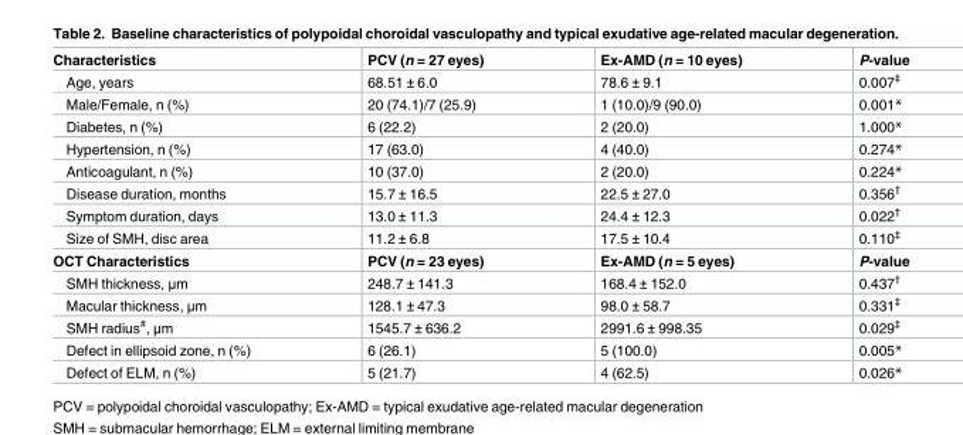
<table><tbody><tr><td>Characteristics</td><td>PCV (n = 27 eyes)</td><td>Ex-AMD (n = 10 eyes)</td><td>P-value</td></tr><tr><td>Age, years</td><td>68.51 ± 6.0</td><td>78.6 ± 9.1</td><td>0.007<sup>‡</sup></td></tr><tr><td>Male/Female, n (%)</td><td>20 (74.1)/7 (25.9)</td><td>1 (10.0)/9 (90.0)</td><td>0.001*</td></tr><tr><td>Diabetes, n (%)</td><td>6 (22.2)</td><td>2 (20.0)</td><td>1.000*</td></tr><tr><td>Hypertension, n (%)</td><td>17 (63.0)</td><td>4 (40.0)</td><td>0.274*</td></tr><tr><td>Anticoagulant, n (%)</td><td>10 (37.0)</td><td>2 (20.0)</td><td>0.224*</td></tr><tr><td>Disease duration, months</td><td>15.7 ± 16.5</td><td>22.5 ± 27.0</td><td>0.356<sup>†</sup></td></tr><tr><td>Symptom duration, days</td><td>13.0 ± 11.3</td><td>24.4 ± 12.3</td><td>0.022<sup>†</sup></td></tr><tr><td>Size of SMH, disc area</td><td>11.2 ± 6.8</td><td>17.5 ± 10.4</td><td>0.110<sup>‡</sup></td></tr><tr><td>OCT Characteristics</td><td>PCV (n = 23 eyes)</td><td>Ex-AMD (n = 5 eyes)</td><td>P-value</td></tr><tr><td>SMH thickness, μm</td><td>248.7 ± 141.3</td><td>168.4 ± 152.0</td><td>0.437<sup>†</sup></td></tr><tr><td>Macular thickness, μm</td><td>128.1 ± 47.3</td><td>98.0 ± 58.7</td><td>0.331<sup>‡</sup></td></tr><tr><td>SMH radius<sup>#</sup>, μm</td><td>1545.7 ± 636.2</td><td>2991.6 ± 998.35</td><td>0.029<sup>‡</sup></td></tr><tr><td>Defect in ellipsoid zone, n (%)</td><td>6 (26.1)</td><td>5 (100.0)</td><td>0.005*</td></tr><tr><td>Defect of ELM, n (%)</td><td>5 (21.7)</td><td>4 (62.5)</td><td>0.026*</td></tr></tbody></table>